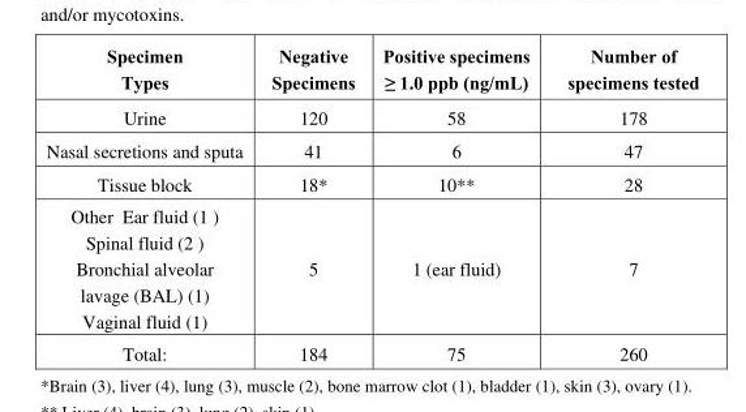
<table><thead><tr><td>Specimen Types</td><td>Negative Specimens</td><td>Positive specimens ≥ 1.0 ppb (ng/mL)</td><td>Number of specimens tested</td></tr></thead><tbody><tr><td>Urine</td><td>120</td><td>58</td><td>178</td></tr><tr><td>Nasal secretions and sputa</td><td>41</td><td>6</td><td>47</td></tr><tr><td>Tissue block</td><td>18*</td><td>10**</td><td>28</td></tr><tr><td>Other Ear fluid (1 ) Spinal fluid (2 ) Bronchial alveolar lavage (BAL) (1) Vaginal fluid (1)</td><td>5</td><td>1 (ear fluid)</td><td>7</td></tr><tr><td>Total:</td><td>184</td><td>75</td><td>260</td></tr></tbody></table>